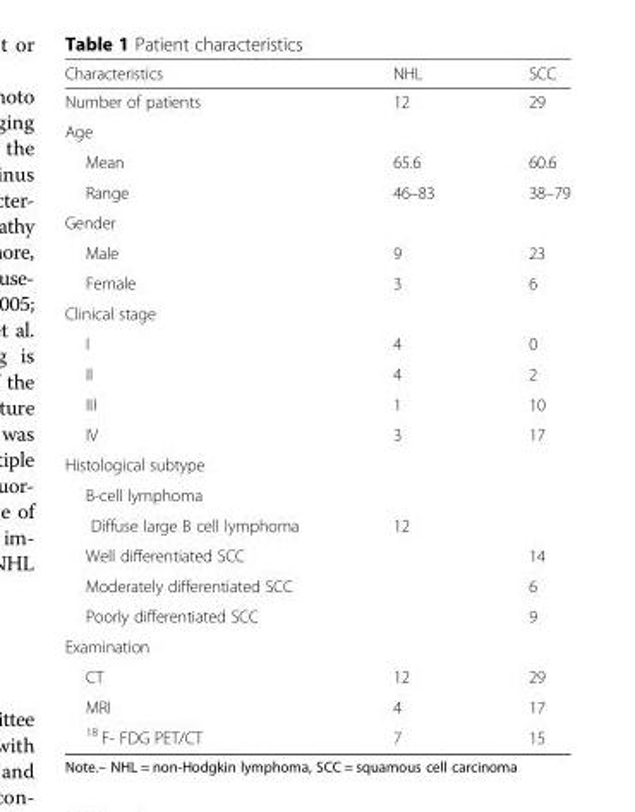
<table><thead><tr><td>Characteristics</td><td>NHL</td><td>SCC</td></tr></thead><tbody><tr><td>Number of patients</td><td>12</td><td>29</td></tr><tr><td colspan="3">Age</td></tr><tr><td>Mean</td><td>65.6</td><td>60.6</td></tr><tr><td>Range</td><td>46–83</td><td>38–79</td></tr><tr><td colspan="3">Gender</td></tr><tr><td>Male</td><td>9</td><td>23</td></tr><tr><td>Female</td><td>3</td><td>6</td></tr><tr><td colspan="3">Clinical stage</td></tr><tr><td>I</td><td>4</td><td>0</td></tr><tr><td>II</td><td>4</td><td>2</td></tr><tr><td>III</td><td>1</td><td>10</td></tr><tr><td>IV</td><td>3</td><td>17</td></tr><tr><td colspan="3">Histological subtype</td></tr><tr><td colspan="3">B-cell lymphoma</td></tr><tr><td>Diffuse large B cell lymphoma</td><td>12</td><td></td></tr><tr><td>Well differentiated SCC</td><td></td><td>14</td></tr><tr><td>Moderately differentiated SCC</td><td></td><td>6</td></tr><tr><td>Poorly differentiated SCC</td><td></td><td>9</td></tr><tr><td colspan="3">Examination</td></tr><tr><td>CT</td><td>12</td><td>29</td></tr><tr><td>MRI</td><td>4</td><td>17</td></tr><tr><td><sup>18</sup> F- FDG PET/CT</td><td>7</td><td>15</td></tr></tbody></table>